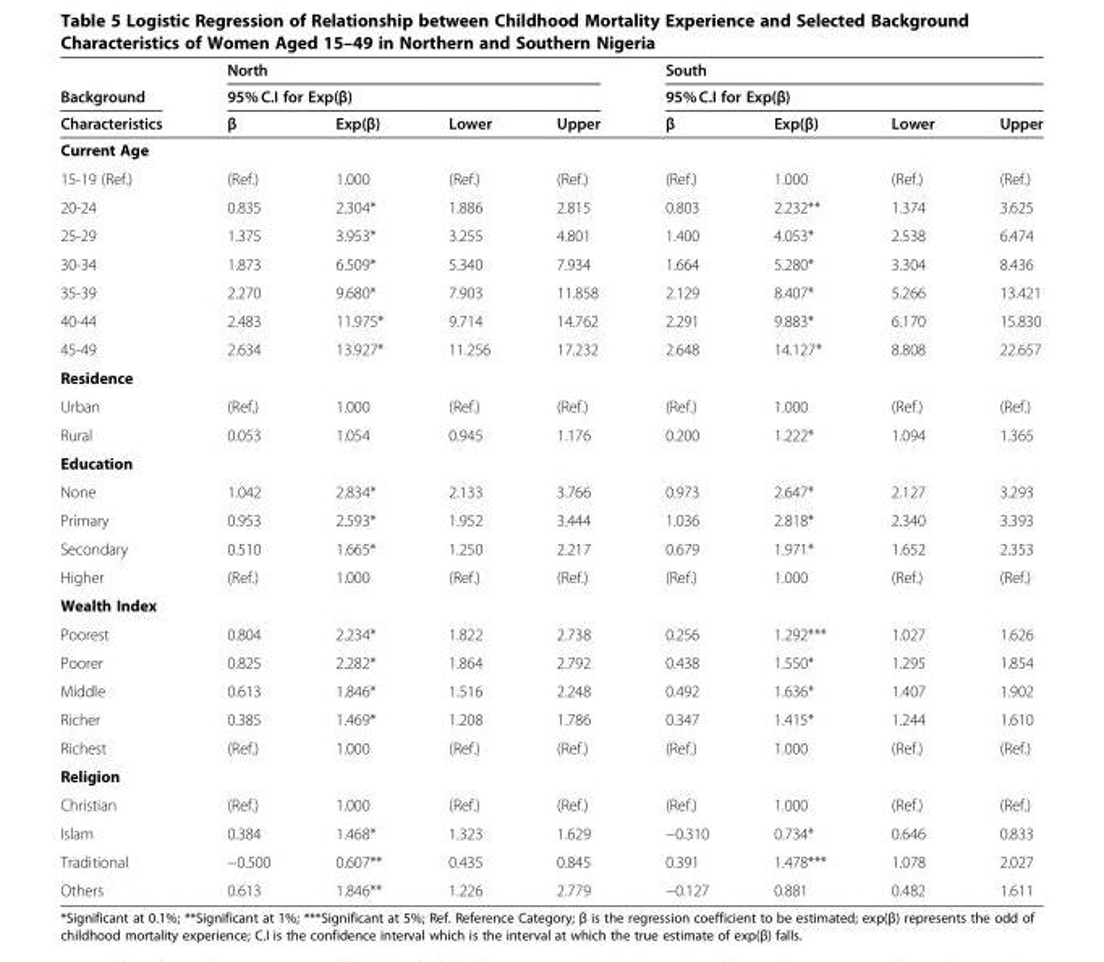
<table><thead><tr><td rowspan="3">Background Characteristics</td><td rowspan="2" colspan="4">North 95% C.I for Exp(β)</td><td rowspan="2" colspan="4">South 95% C.I for Exp(β)</td></tr><tr></tr><tr><td>β</td><td>Exp(β)</td><td>Lower</td><td>Upper</td><td>β</td><td>Exp(β)</td><td>Lower</td><td>Upper</td></tr></thead><tbody><tr><td colspan="9">Current Age</td></tr><tr><td>15-19 (Ref.)</td><td>(Ref.)</td><td>1.000</td><td>(Ref.)</td><td>(Ref.)</td><td>(Ref.)</td><td>1.000</td><td>(Ref.)</td><td>(Ref.)</td></tr><tr><td>20-24</td><td>0.835</td><td>2.304*</td><td>1.886</td><td>2.815</td><td>0.803</td><td>2.232**</td><td>1.374</td><td>3.625</td></tr><tr><td>25-29</td><td>1.375</td><td>3.953*</td><td>3.255</td><td>4.801</td><td>1.400</td><td>4.053*</td><td>2.538</td><td>6.474</td></tr><tr><td>30-34</td><td>1.873</td><td>6.509*</td><td>5.340</td><td>7.934</td><td>1.664</td><td>5.280*</td><td>3.304</td><td>8.436</td></tr><tr><td>35-39</td><td>2.270</td><td>9.680*</td><td>7.903</td><td>11.858</td><td>2.129</td><td>8.407*</td><td>5.266</td><td>13.421</td></tr><tr><td>40-44</td><td>2.483</td><td>11.975*</td><td>9.714</td><td>14.762</td><td>2.291</td><td>9.883*</td><td>6.170</td><td>15.830</td></tr><tr><td>45-49</td><td>2.634</td><td>13.927*</td><td>11.256</td><td>17.232</td><td>2.648</td><td>14.127*</td><td>8.808</td><td>22.657</td></tr><tr><td colspan="9">Residence</td></tr><tr><td>Urban</td><td>(Ref.)</td><td>1.000</td><td>(Ref.)</td><td>(Ref.)</td><td>(Ref.)</td><td>1.000</td><td>(Ref.)</td><td>(Ref.)</td></tr><tr><td>Rural</td><td>0.053</td><td>1.054</td><td>0.945</td><td>1.176</td><td>0.200</td><td>1.222*</td><td>1.094</td><td>1.365</td></tr><tr><td colspan="9">Education</td></tr><tr><td>None</td><td>1.042</td><td>2.834*</td><td>2.133</td><td>3.766</td><td>0.973</td><td>2.647*</td><td>2.127</td><td>3.293</td></tr><tr><td>Primary</td><td>0.953</td><td>2.593*</td><td>1.952</td><td>3.444</td><td>1.036</td><td>2.818*</td><td>2.340</td><td>3.393</td></tr><tr><td>Secondary</td><td>0.510</td><td>1.665*</td><td>1.250</td><td>2.217</td><td>0.679</td><td>1.971*</td><td>1.652</td><td>2.353</td></tr><tr><td>Higher</td><td>(Ref.)</td><td>1.000</td><td>(Ref.)</td><td>(Ref.)</td><td>(Ref.)</td><td>1.000</td><td>(Ref.)</td><td>(Ref.)</td></tr><tr><td colspan="9">Wealth Index</td></tr><tr><td>Poorest</td><td>0.804</td><td>2.234*</td><td>1.822</td><td>2.738</td><td>0.256</td><td>1.292***</td><td>1.027</td><td>1.626</td></tr><tr><td>Poorer</td><td>0.825</td><td>2.282*</td><td>1.864</td><td>2.792</td><td>0.438</td><td>1.550*</td><td>1.295</td><td>1.854</td></tr><tr><td>Middle</td><td>0.613</td><td>1.846*</td><td>1.516</td><td>2.248</td><td>0.492</td><td>1.636*</td><td>1.407</td><td>1.902</td></tr><tr><td>Richer</td><td>0.385</td><td>1.469*</td><td>1.208</td><td>1.786</td><td>0.347</td><td>1.415*</td><td>1.244</td><td>1.610</td></tr><tr><td>Richest</td><td>(Ref.)</td><td>1.000</td><td>(Ref.)</td><td>(Ref.)</td><td>(Ref.)</td><td>1.000</td><td>(Ref.)</td><td>(Ref.)</td></tr><tr><td colspan="9">Religion</td></tr><tr><td>Christian</td><td>(Ref.)</td><td>1.000</td><td>(Ref.)</td><td>(Ref.)</td><td>(Ref.)</td><td>1.000</td><td>(Ref.)</td><td>(Ref.)</td></tr><tr><td>Islam</td><td>0.384</td><td>1.468*</td><td>1.323</td><td>1.629</td><td>−0.310</td><td>0.734*</td><td>0.646</td><td>0.833</td></tr><tr><td>Traditional</td><td>−0.500</td><td>0.607**</td><td>0.435</td><td>0.845</td><td>0.391</td><td>1.478***</td><td>1.078</td><td>2.027</td></tr><tr><td>Others</td><td>0.613</td><td>1.846**</td><td>1.226</td><td>2.779</td><td>−0.127</td><td>0.881</td><td>0.482</td><td>1.611</td></tr></tbody></table>